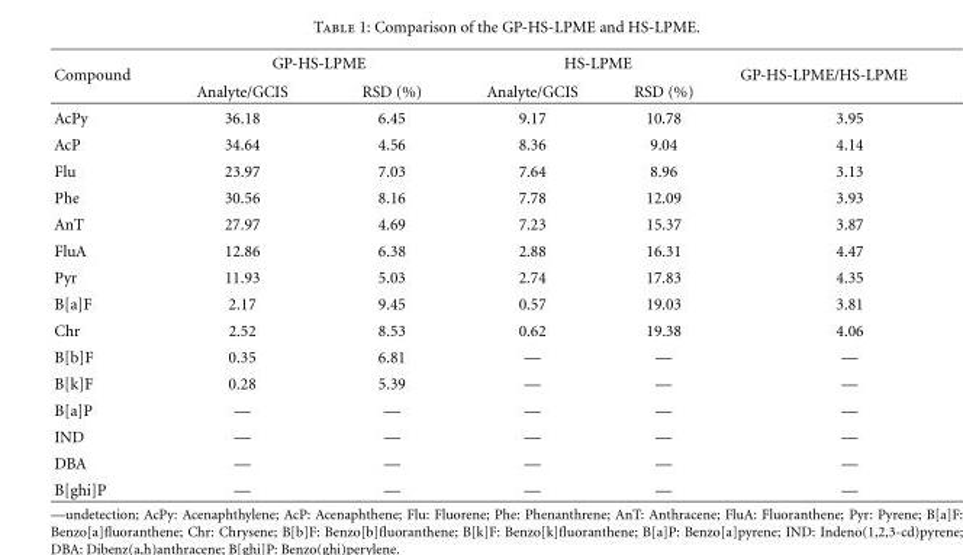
<table><thead><tr><td rowspan="2">Compound</td><td colspan="2">GP-HS-LPME</td><td colspan="2">HS-LPME</td><td rowspan="2">GP-HS-LPME/HS-LPME</td></tr><tr><td>Analyte/GCIS</td><td>RSD (%)</td><td>Analyte/GCIS</td><td>RSD (%)</td></tr></thead><tbody><tr><td>AcPy</td><td>36.18</td><td>6.45</td><td>9.17</td><td>10.78</td><td>3.95</td></tr><tr><td>AcP</td><td>34.64</td><td>4.56</td><td>8.36</td><td>9.04</td><td>4.14</td></tr><tr><td>Flu</td><td>23.97</td><td>7.03</td><td>7.64</td><td>8.96</td><td>3.13</td></tr><tr><td>Phe</td><td>30.56</td><td>8.16</td><td>7.78</td><td>12.09</td><td>3.93</td></tr><tr><td>AnT</td><td>27.97</td><td>4.69</td><td>7.23</td><td>15.37</td><td>3.87</td></tr><tr><td>FluA</td><td>12.86</td><td>6.38</td><td>2.88</td><td>16.31</td><td>4.47</td></tr><tr><td>Pyr</td><td>11.93</td><td>5.03</td><td>2.74</td><td>17.83</td><td>4.35</td></tr><tr><td>B[a]F</td><td>2.17</td><td>9.45</td><td>0.57</td><td>19.03</td><td>3.81</td></tr><tr><td>Chr</td><td>2.52</td><td>8.53</td><td>0.62</td><td>19.38</td><td>4.06</td></tr><tr><td>B[b]F</td><td>0.35</td><td>6.81</td><td>—</td><td>—</td><td>—</td></tr><tr><td>B[k]F</td><td>0.28</td><td>5.39</td><td>—</td><td>—</td><td>—</td></tr><tr><td>B[a]P</td><td>—</td><td>—</td><td>—</td><td>—</td><td>—</td></tr><tr><td>IND</td><td>—</td><td>—</td><td>—</td><td>—</td><td>—</td></tr><tr><td>DBA</td><td>—</td><td>—</td><td>—</td><td>—</td><td>—</td></tr><tr><td>B[ghi]P</td><td>—</td><td>—</td><td>—</td><td>—</td><td>—</td></tr></tbody></table>